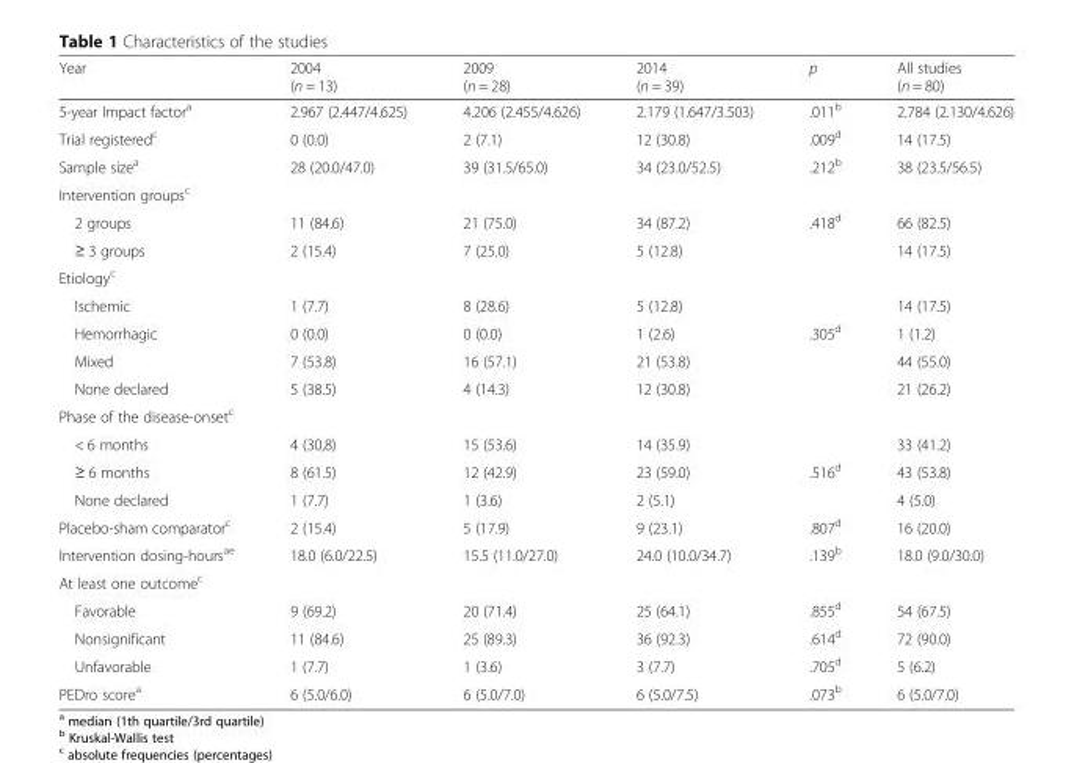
<table><thead><tr><td>Year</td><td>2004 (n = 13)</td><td>2009 (n = 28)</td><td>2014 (n = 39)</td><td>p</td><td>All studies (n = 80)</td></tr></thead><tbody><tr><td>5-year Impact factor<sup>a</sup></td><td>2.967 (2.447/4.625)</td><td>4.206 (2.455/4.626)</td><td>2.179 (1.647/3.503)</td><td>.011<sup>b</sup></td><td>2.784 (2.130/4.626)</td></tr><tr><td>Trial registered<sup>c</sup></td><td>0 (0.0)</td><td>2 (7.1)</td><td>12 (30.8)</td><td>.009<sup>d</sup></td><td>14 (17.5)</td></tr><tr><td>Sample size<sup>a</sup></td><td>28 (20.0/47.0)</td><td>39 (31.5/65.0)</td><td>34 (23.0/52.5)</td><td>.212<sup>b</sup></td><td>38 (23.5/56.5)</td></tr><tr><td colspan="6">Intervention groups<sup>c</sup></td></tr><tr><td>2 groups</td><td>11 (84.6)</td><td>21 (75.0)</td><td>34 (87.2)</td><td>.418<sup>d</sup></td><td>66 (82.5)</td></tr><tr><td>≥ 3 groups</td><td>2 (15.4)</td><td>7 (25.0)</td><td>5 (12.8)</td><td></td><td>14 (17.5)</td></tr><tr><td colspan="6">Etiology<sup>c</sup></td></tr><tr><td>Ischemic</td><td>1 (7.7)</td><td>8 (28.6)</td><td>5 (12.8)</td><td></td><td>14 (17.5)</td></tr><tr><td>Hemorrhagic</td><td>0 (0.0)</td><td>0 (0.0)</td><td>1 (2.6)</td><td>.305<sup>d</sup></td><td>1 (1.2)</td></tr><tr><td>Mixed</td><td>7 (53.8)</td><td>16 (57.1)</td><td>21 (53.8)</td><td></td><td>44 (55.0)</td></tr><tr><td>None declared</td><td>5 (38.5)</td><td>4 (14.3)</td><td>12 (30.8)</td><td></td><td>21 (26.2)</td></tr><tr><td colspan="6">Phase of the disease-onset<sup>c</sup></td></tr><tr><td>&lt; 6 months</td><td>4 (30,8)</td><td>15 (53.6)</td><td>14 (35.9)</td><td></td><td>33 (41.2)</td></tr><tr><td>≥ 6 months</td><td>8 (61.5)</td><td>12 (42.9)</td><td>23 (59.0)</td><td>.516<sup>d</sup></td><td>43 (53.8)</td></tr><tr><td>None declared</td><td>1 (7.7)</td><td>1 (3.6)</td><td>2 (5.1)</td><td></td><td>4 (5.0)</td></tr><tr><td>Placebo-sham comparator<sup>c</sup></td><td>2 (15.4)</td><td>5 (17.9)</td><td>9 (23.1)</td><td>.807<sup>d</sup></td><td>16 (20.0)</td></tr><tr><td>Intervention dosing-hours<sup>ae</sup></td><td>18.0 (6.0/22.5)</td><td>15.5 (11.0/27.0)</td><td>24.0 (10.0/34.7)</td><td>.139<sup>b</sup></td><td>18.0 (9.0/30.0)</td></tr><tr><td colspan="6">At least one outcome<sup>c</sup></td></tr><tr><td>Favorable</td><td>9 (69.2)</td><td>20 (71.4)</td><td>25 (64.1)</td><td>.855<sup>d</sup></td><td>54 (67.5)</td></tr><tr><td>Nonsignificant</td><td>11 (84.6)</td><td>25 (89.3)</td><td>36 (92.3)</td><td>.614<sup>d</sup></td><td>72 (90.0)</td></tr><tr><td>Unfavorable</td><td>1 (7.7)</td><td>1 (3.6)</td><td>3 (7.7)</td><td>.705<sup>d</sup></td><td>5 (6.2)</td></tr><tr><td>PEDro score<sup>a</sup></td><td>6 (5.0/6.0)</td><td>6 (5.0/7.0)</td><td>6 (5.0/7.5)</td><td>.073<sup>b</sup></td><td>6 (5.0/7.0)</td></tr></tbody></table>